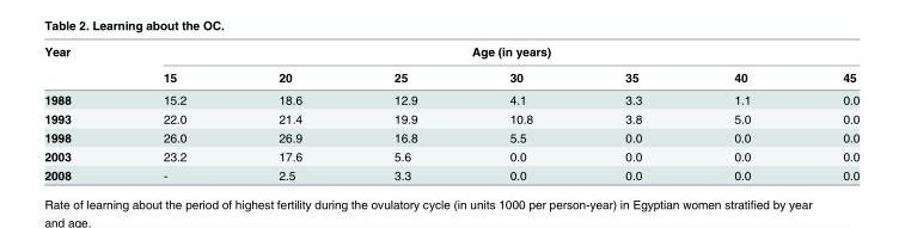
<table><thead><tr><td rowspan="2">Year</td><td colspan="7">Age (in years)</td></tr><tr><td>15</td><td>20</td><td>25</td><td>30</td><td>35</td><td>40</td><td>45</td></tr></thead><tbody><tr><td>1988</td><td>15.2</td><td>18.6</td><td>12.9</td><td>4.1</td><td>3.3</td><td>1.1</td><td>0.0</td></tr><tr><td>1993</td><td>22.0</td><td>21.4</td><td>19.9</td><td>10.8</td><td>3.8</td><td>5.0</td><td>0.0</td></tr><tr><td>1998</td><td>26.0</td><td>26.9</td><td>16.8</td><td>5.5</td><td>0.0</td><td>0.0</td><td>0.0</td></tr><tr><td>2003</td><td>23.2</td><td>17.6</td><td>5.6</td><td>0.0</td><td>0.0</td><td>0.0</td><td>0.0</td></tr><tr><td>2008</td><td>-</td><td>2.5</td><td>3.3</td><td>0.0</td><td>0.0</td><td>0.0</td><td>0.0</td></tr></tbody></table>